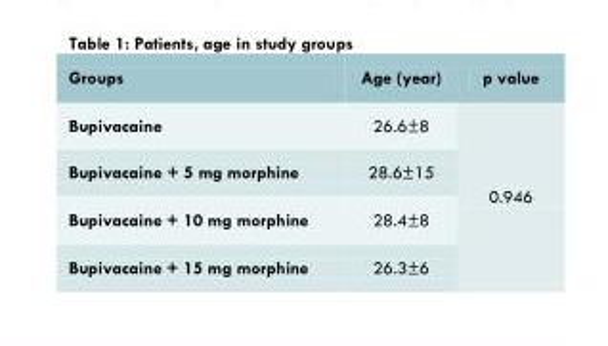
<table><thead><tr><td>Groups</td><td>Age (year)</td><td>p value</td></tr></thead><tbody><tr><td>Bupivacaine</td><td>26.6±8</td><td rowspan="4">0.946</td></tr><tr><td>Bupivacaine + 5 mg morphine</td><td>28.6±15</td></tr><tr><td>Bupivacaine + 10 mg morphine</td><td>28.4±8</td></tr><tr><td>Bupivacaine + 15 mg morphine</td><td>26.3±6</td></tr></tbody></table>